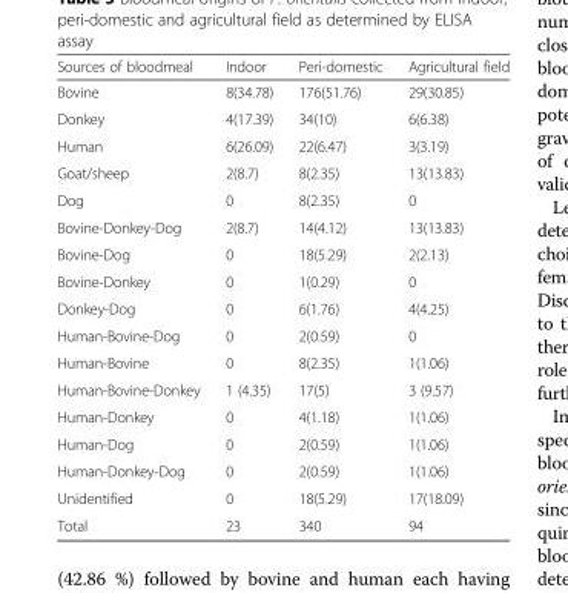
<table><thead><tr><td>Sources of bloodmeal</td><td>Indoor</td><td>Peri-domestic</td><td>Agricultural field</td></tr></thead><tbody><tr><td>Bovine</td><td>8(34.78)</td><td>176(51.76)</td><td>29(30.85)</td></tr><tr><td>Donkey</td><td>4(17.39)</td><td>34(10)</td><td>6(6.38)</td></tr><tr><td>Human</td><td>6(26.09)</td><td>22(6.47)</td><td>3(3.19)</td></tr><tr><td>Goat/sheep</td><td>2(8.7)</td><td>8(2.35)</td><td>13(13.83)</td></tr><tr><td>Dog</td><td>0</td><td>8(2.35)</td><td>0</td></tr><tr><td>Bovine-Donkey-Dog</td><td>2(8.7)</td><td>14(4.12)</td><td>13(13.83)</td></tr><tr><td>Bovine-Dog</td><td>0</td><td>18(5.29)</td><td>2(2.13)</td></tr><tr><td>Bovine-Donkey</td><td>0</td><td>1(0.29)</td><td>0</td></tr><tr><td>Donkey-Dog</td><td>0</td><td>6(1.76)</td><td>4(4.25)</td></tr><tr><td>Human-Bovine-Dog</td><td>0</td><td>2(0.59)</td><td>0</td></tr><tr><td>Human-Bovine</td><td>0</td><td>8(2.35)</td><td>1(1.06)</td></tr><tr><td>Human-Bovine-Donkey</td><td>1 (4.35)</td><td>17(5)</td><td>3 (9.57)</td></tr><tr><td>Human-Donkey</td><td>0</td><td>4(1.18)</td><td>1(1.06)</td></tr><tr><td>Human-Dog</td><td>0</td><td>2(0.59)</td><td>1(1.06)</td></tr><tr><td>Human-Donkey-Dog</td><td>0</td><td>2(0.59)</td><td>1(1.06)</td></tr><tr><td>Unidentified</td><td>0</td><td>18(5.29)</td><td>17(18.09)</td></tr><tr><td>Total</td><td>23</td><td>340</td><td>94</td></tr></tbody></table>